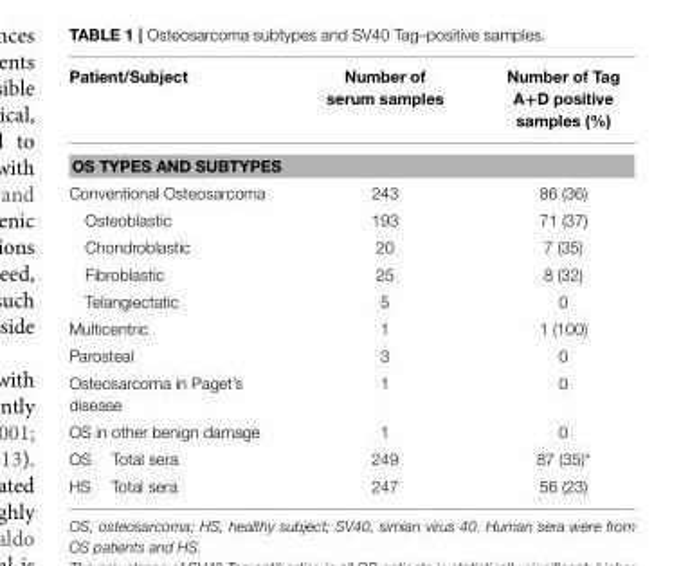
<table><thead><tr><td>Patient/Subject</td><td>Number of serum samples</td><td>Number of Tag A+D positive samples (%)</td></tr></thead><tbody><tr><td colspan="3">OS TYPES AND SUBTYPES</td></tr><tr><td>Conventional Osteosarcoma</td><td>243</td><td>86 (36)</td></tr><tr><td>Osteoblastic</td><td>193</td><td>71 (37)</td></tr><tr><td>Chondroblastic</td><td>20</td><td>7 (35)</td></tr><tr><td>Fibroblastic</td><td>25</td><td>8 (32)</td></tr><tr><td>Telangiectatic</td><td>5</td><td>0</td></tr><tr><td>Multicentric</td><td>1</td><td>1 (100)</td></tr><tr><td>Parosteal</td><td>3</td><td>0</td></tr><tr><td>Osteosarcoma in Paget’s disease</td><td>1</td><td>0</td></tr><tr><td>OS in other benign damage</td><td>1</td><td>0</td></tr><tr><td>OS Total sera</td><td>249</td><td>87 (35)*</td></tr><tr><td>HS Total sera</td><td>247</td><td>56 (23)</td></tr></tbody></table>